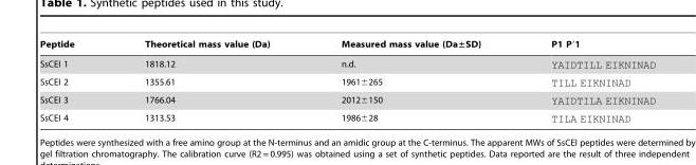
<table><thead><tr><td>Peptide</td><td>Theoretical mass value (Da)</td><td>Measured mass value (Da±SD)</td><td>P1 P′1</td></tr></thead><tbody><tr><td>SsCEI 1</td><td>1818.12</td><td>n.d.</td><td>YAIDTILL EIKNINAD</td></tr><tr><td>SsCEI 2</td><td>1355.61</td><td>1961±265</td><td>TILL EIKNINAD</td></tr><tr><td>SsCEI 3</td><td>1766.04</td><td>2012±150</td><td>YAIDTILA EIKNINAD</td></tr><tr><td>SsCEI 4</td><td>1313.53</td><td>1986±28</td><td>TILA EIKNINAD</td></tr></tbody></table>